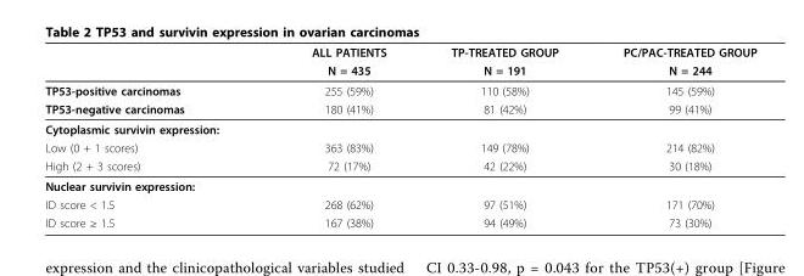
<table><thead><tr><td rowspan="2"></td><td rowspan="2">ALL PATIENTS N = 435</td><td rowspan="2">TP-TREATED GROUP N = 191</td><td rowspan="2">PC/PAC-TREATED GROUP N = 244</td></tr><tr></tr></thead><tbody><tr><td>TP53-positive carcinomas</td><td>255 (59%)</td><td>110 (58%)</td><td>145 (59%)</td></tr><tr><td>TP53-negative carcinomas</td><td>180 (41%)</td><td>81 (42%)</td><td>99 (41%)</td></tr><tr><td colspan="4">Cytoplasmic survivin expression:</td></tr><tr><td>Low (0 + 1 scores)</td><td>363 (83%)</td><td>149 (78%)</td><td>214 (82%)</td></tr><tr><td>High (2 + 3 scores)</td><td>72 (17%)</td><td>42 (22%)</td><td>30 (18%)</td></tr><tr><td colspan="4">Nuclear survivin expression:</td></tr><tr><td>ID score &lt; 1.5</td><td>268 (62%)</td><td>97 (51%)</td><td>171 (70%)</td></tr><tr><td>ID score ≥ 1.5</td><td>167 (38%)</td><td>94 (49%)</td><td>73 (30%)</td></tr></tbody></table>